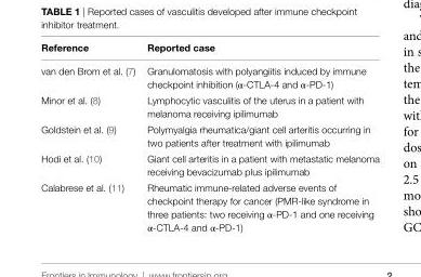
<table><thead><tr><td>reference</td><td>reported case</td></tr></thead><tbody><tr><td>van den Brom et al. (7)</td><td>Granulomatosis with polyangiitis induced by immune checkpoint inhibition (α-CTLA-4 and α-PD-1)</td></tr><tr><td>Minor et al. (8)</td><td>Lymphocytic vasculitis of the uterus in a patient with melanoma receiving ipilimumab</td></tr><tr><td>Goldstein et al. (9)</td><td>Polymyalgia rheumatica/giant cell arteritis occurring in two patients after treatment with ipilimumab</td></tr><tr><td>Hodi et al. (10)</td><td>Giant cell arteritis in a patient with metastatic melanoma receiving bevacizumab plus ipilimumab</td></tr><tr><td>Calabrese et al. (11)</td><td>Rheumatic immune-related adverse events of checkpoint therapy for cancer (PMR-like syndrome in three patients: two receiving α-PD-1 and one receiving α-CTLA-4 and α-PD-1)</td></tr></tbody></table>